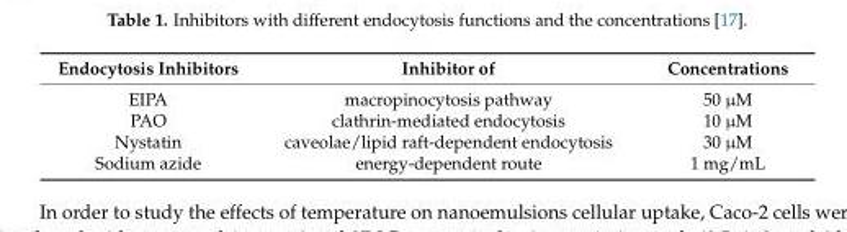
<table><thead><tr><td>Endocytosis Inhibitors</td><td>Inhibitor of</td><td>Concentrations</td></tr></thead><tbody><tr><td>EIPA</td><td>macropinocytosis pathway</td><td>50 µM</td></tr><tr><td>PAO</td><td>clathrin-mediated endocytosis</td><td>10 µM</td></tr><tr><td>Nystatin</td><td>caveolae/lipid raft-dependent endocytosis</td><td>30 µM</td></tr><tr><td>Sodium azide</td><td>energy-dependent route</td><td>1 mg/mL</td></tr></tbody></table>